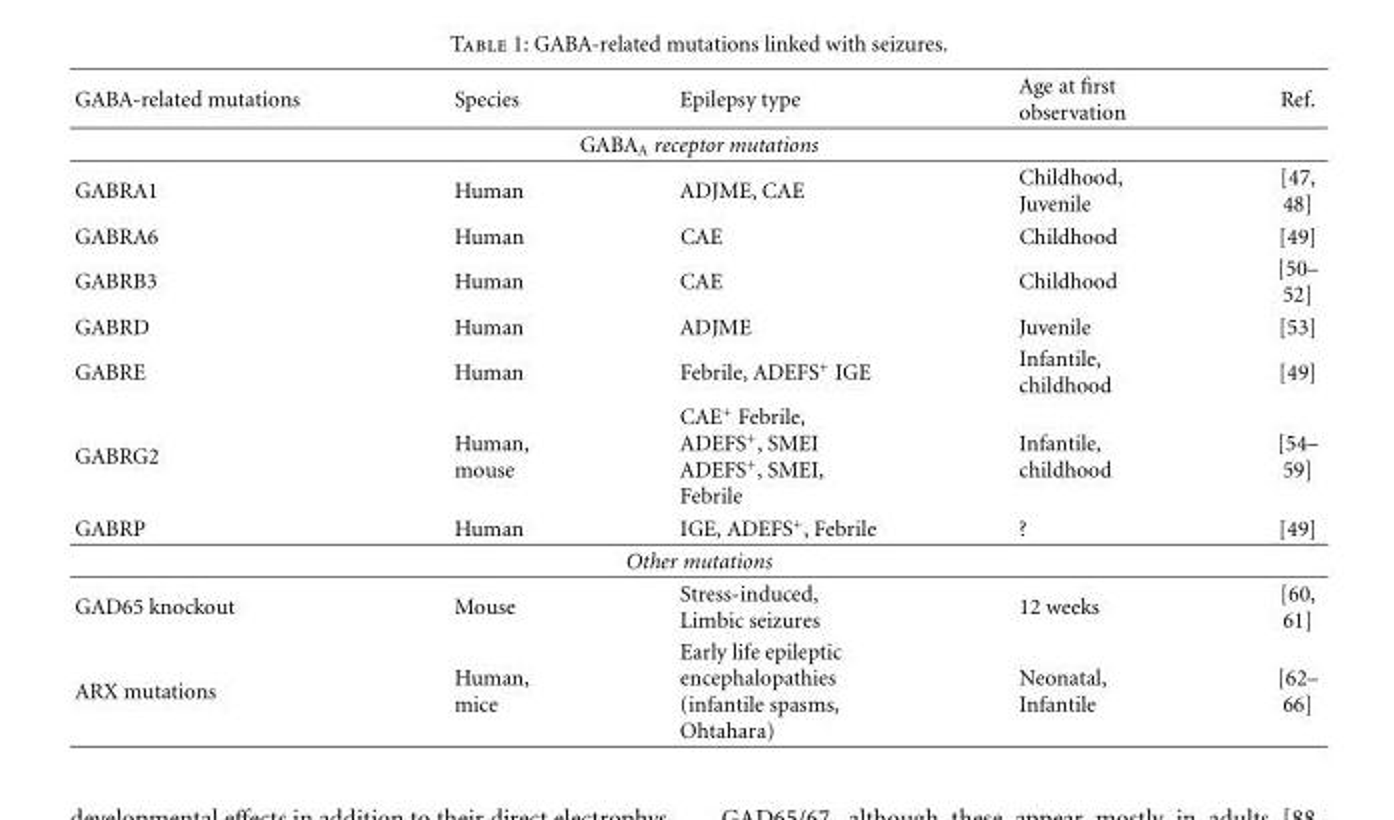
<table><thead><tr><td>GABA-related mutations</td><td>Species</td><td>Epilepsy type</td><td>Age at first observation</td><td>Ref.</td></tr></thead><tbody><tr><td colspan="5">GABA<sub>A</sub> receptor mutations</td></tr><tr><td>GABRA1</td><td>Human</td><td>ADJME, CAE</td><td>Childhood, Juvenile</td><td>[47, 48]</td></tr><tr><td>GABRA6</td><td>Human</td><td>CAE</td><td>Childhood</td><td>[49]</td></tr><tr><td>GABRB3</td><td>Human</td><td>CAE</td><td>Childhood</td><td>[50– 52]</td></tr><tr><td>GABRD</td><td>Human</td><td>ADJME</td><td>Juvenile</td><td>[53]</td></tr><tr><td>GABRE</td><td>Human</td><td>Febrile, ADEFS<sup>+</sup> IGE</td><td>Infantile, childhood</td><td>[49]</td></tr><tr><td>GABRG2</td><td>Human, mouse</td><td>CAE<sup>+</sup> Febrile, ADEFS<sup>+</sup>, SMEI ADEFS<sup>+</sup>, SMEI, Febrile</td><td>Infantile, childhood</td><td>[54– 59]</td></tr><tr><td>GABRP</td><td>Human</td><td>IGE, ADEFS<sup>+</sup>, Febrile</td><td>?</td><td>[49]</td></tr><tr><td colspan="5">Other mutations</td></tr><tr><td>GAD65 knockout</td><td>Mouse</td><td>Stress-induced, Limbic seizures</td><td>12 weeks</td><td>[60, 61]</td></tr><tr><td>ARX mutations</td><td>Human, mice</td><td>Early life epileptic encephalopathies (infantile spasms, Ohtahara)</td><td>Neonatal, Infantile</td><td>[62– 66]</td></tr></tbody></table>